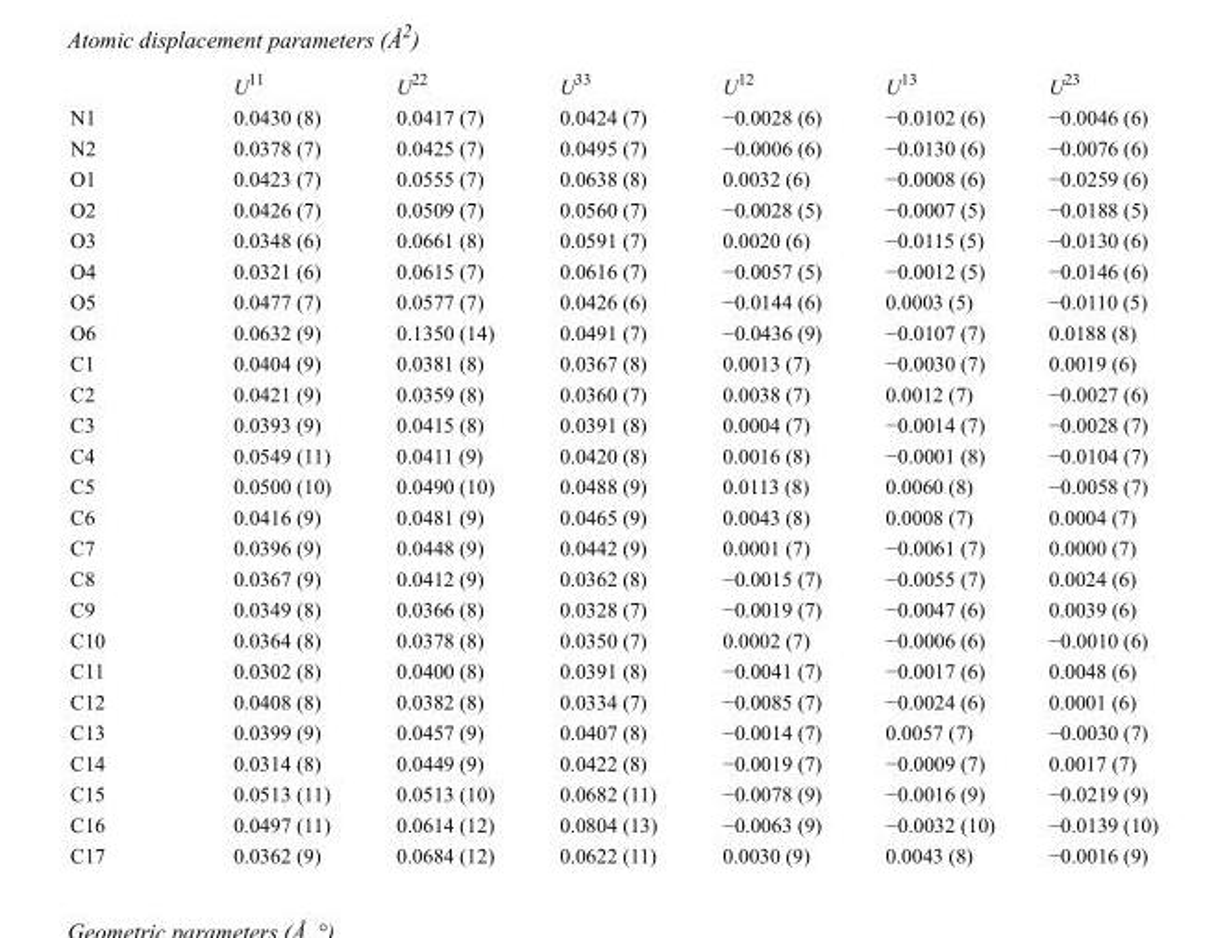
<table><thead><tr><td></td><td>U<sup>11</sup></td><td>U<sup>22</sup></td><td>U<sup>33</sup></td><td>U<sup>12</sup></td><td>U<sup>13</sup></td><td>U<sup>23</sup></td></tr></thead><tbody><tr><td>N1</td><td>0.0430 (8)</td><td>0.0417 (7)</td><td>0.0424 (7)</td><td>−0.0028 (6)</td><td>−0.0102 (6)</td><td>−0.0046 (6)</td></tr><tr><td>N2</td><td>0.0378 (7)</td><td>0.0425 (7)</td><td>0.0495 (7)</td><td>−0.0006 (6)</td><td>−0.0130 (6)</td><td>−0.0076 (6)</td></tr><tr><td>O1</td><td>0.0423 (7)</td><td>0.0555 (7)</td><td>0.0638 (8)</td><td>0.0032 (6)</td><td>−0.0008 (6)</td><td>−0.0259 (6)</td></tr><tr><td>O2</td><td>0.0426 (7)</td><td>0.0509 (7)</td><td>0.0560 (7)</td><td>−0.0028 (5)</td><td>−0.0007 (5)</td><td>−0.0188 (5)</td></tr><tr><td>O3</td><td>0.0348 (6)</td><td>0.0661 (8)</td><td>0.0591 (7)</td><td>0.0020 (6)</td><td>−0.0115 (5)</td><td>−0.0130 (6)</td></tr><tr><td>O4</td><td>0.0321 (6)</td><td>0.0615 (7)</td><td>0.0616 (7)</td><td>−0.0057 (5)</td><td>−0.0012 (5)</td><td>−0.0146 (6)</td></tr><tr><td>O5</td><td>0.0477 (7)</td><td>0.0577 (7)</td><td>0.0426 (6)</td><td>−0.0144 (6)</td><td>0.0003 (5)</td><td>−0.0110 (5)</td></tr><tr><td>O6</td><td>0.0632 (9)</td><td>0.1350 (14)</td><td>0.0491 (7)</td><td>−0.0436 (9)</td><td>−0.0107 (7)</td><td>0.0188 (8)</td></tr><tr><td>C1</td><td>0.0404 (9)</td><td>0.0381 (8)</td><td>0.0367 (8)</td><td>0.0013 (7)</td><td>−0.0030 (7)</td><td>0.0019 (6)</td></tr><tr><td>C2</td><td>0.0421 (9)</td><td>0.0359 (8)</td><td>0.0360 (7)</td><td>0.0038 (7)</td><td>0.0012 (7)</td><td>−0.0027 (6)</td></tr><tr><td>C3</td><td>0.0393 (9)</td><td>0.0415 (8)</td><td>0.0391 (8)</td><td>0.0004 (7)</td><td>−0.0014 (7)</td><td>−0.0028 (7)</td></tr><tr><td>C4</td><td>0.0549 (11)</td><td>0.0411 (9)</td><td>0.0420 (8)</td><td>0.0016 (8)</td><td>−0.0001 (8)</td><td>−0.0104 (7)</td></tr><tr><td>C5</td><td>0.0500 (10)</td><td>0.0490 (10)</td><td>0.0488 (9)</td><td>0.0113 (8)</td><td>0.0060 (8)</td><td>−0.0058 (7)</td></tr><tr><td>C6</td><td>0.0416 (9)</td><td>0.0481 (9)</td><td>0.0465 (9)</td><td>0.0043 (8)</td><td>0.0008 (7)</td><td>0.0004 (7)</td></tr><tr><td>C7</td><td>0.0396 (9)</td><td>0.0448 (9)</td><td>0.0442 (9)</td><td>0.0001 (7)</td><td>−0.0061 (7)</td><td>0.0000 (7)</td></tr><tr><td>C8</td><td>0.0367 (9)</td><td>0.0412 (9)</td><td>0.0362 (8)</td><td>−0.0015 (7)</td><td>−0.0055 (7)</td><td>0.0024 (6)</td></tr><tr><td>C9</td><td>0.0349 (8)</td><td>0.0366 (8)</td><td>0.0328 (7)</td><td>−0.0019 (7)</td><td>−0.0047 (6)</td><td>0.0039 (6)</td></tr><tr><td>C10</td><td>0.0364 (8)</td><td>0.0378 (8)</td><td>0.0350 (7)</td><td>0.0002 (7)</td><td>−0.0006 (6)</td><td>−0.0010 (6)</td></tr><tr><td>C11</td><td>0.0302 (8)</td><td>0.0400 (8)</td><td>0.0391 (8)</td><td>−0.0041 (7)</td><td>−0.0017 (6)</td><td>0.0048 (6)</td></tr><tr><td>C12</td><td>0.0408 (8)</td><td>0.0382 (8)</td><td>0.0334 (7)</td><td>−0.0085 (7)</td><td>−0.0024 (6)</td><td>0.0001 (6)</td></tr><tr><td>C13</td><td>0.0399 (9)</td><td>0.0457 (9)</td><td>0.0407 (8)</td><td>−0.0014 (7)</td><td>0.0057 (7)</td><td>−0.0030 (7)</td></tr><tr><td>C14</td><td>0.0314 (8)</td><td>0.0449 (9)</td><td>0.0422 (8)</td><td>−0.0019 (7)</td><td>−0.0009 (7)</td><td>0.0017 (7)</td></tr><tr><td>C15</td><td>0.0513 (11)</td><td>0.0513 (10)</td><td>0.0682 (11)</td><td>−0.0078 (9)</td><td>−0.0016 (9)</td><td>−0.0219 (9)</td></tr><tr><td>C16</td><td>0.0497 (11)</td><td>0.0614 (12)</td><td>0.0804 (13)</td><td>−0.0063 (9)</td><td>−0.0032 (10)</td><td>−0.0139 (10)</td></tr><tr><td>C17</td><td>0.0362 (9)</td><td>0.0684 (12)</td><td>0.0622 (11)</td><td>0.0030 (9)</td><td>0.0043 (8)</td><td>−0.0016 (9)</td></tr></tbody></table>